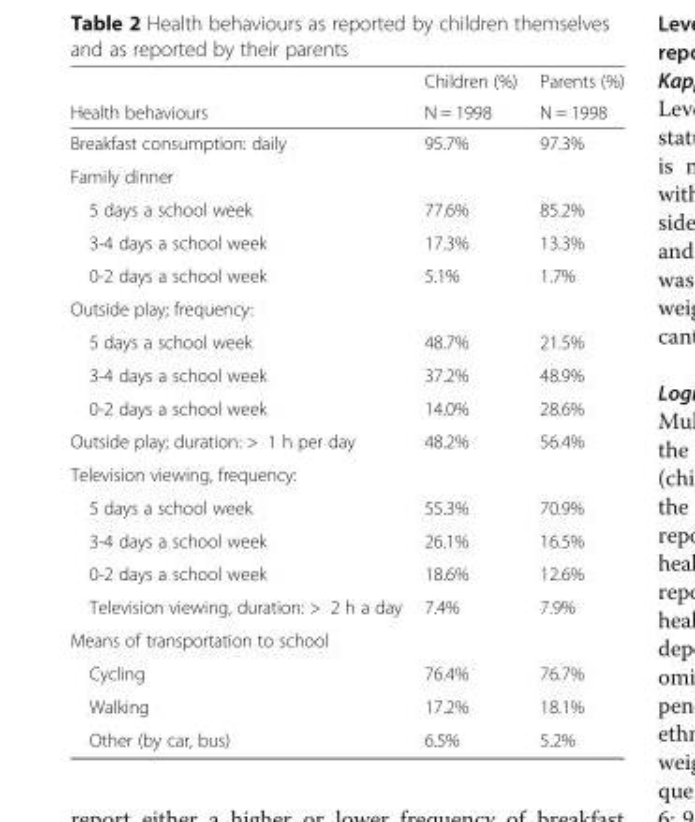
<table><thead><tr><td rowspan="2">Health behaviours</td><td rowspan="2">Children (%) N = 1998</td><td rowspan="2">Parents (%) N = 1998</td></tr><tr></tr></thead><tbody><tr><td>Breakfast consumption: daily</td><td>95.7%</td><td>97.3%</td></tr><tr><td colspan="3">Family dinner</td></tr><tr><td>5 days a school week</td><td>77.6%</td><td>85.2%</td></tr><tr><td>3-4 days a school week</td><td>17.3%</td><td>13.3%</td></tr><tr><td>0-2 days a school week</td><td>5.1%</td><td>1.7%</td></tr><tr><td colspan="3">Outside play; frequency:</td></tr><tr><td>5 days a school week</td><td>48.7%</td><td>21.5%</td></tr><tr><td>3-4 days a school week</td><td>37.2%</td><td>48.9%</td></tr><tr><td>0-2 days a school week</td><td>14.0%</td><td>28.6%</td></tr><tr><td>Outside play; duration: &gt; 1 h per day</td><td>48.2%</td><td>56.4%</td></tr><tr><td colspan="3">Television viewing, frequency:</td></tr><tr><td>5 days a school week</td><td>55.3%</td><td>70.9%</td></tr><tr><td>3-4 days a school week</td><td>26.1%</td><td>16.5%</td></tr><tr><td>0-2 days a school week</td><td>18.6%</td><td>12.6%</td></tr><tr><td>Television viewing, duration: &gt; 2 h a day</td><td>7.4%</td><td>7.9%</td></tr><tr><td colspan="3">Means of transportation to school</td></tr><tr><td>Cycling</td><td>76.4%</td><td>76.7%</td></tr><tr><td>Walking</td><td>17.2%</td><td>18.1%</td></tr><tr><td>Other (by car, bus)</td><td>6.5%</td><td>5.2%</td></tr></tbody></table>